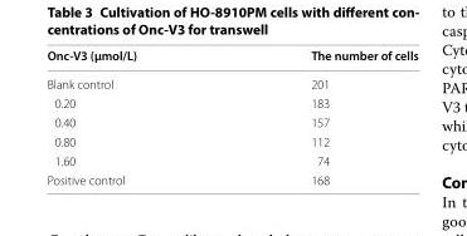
<table><thead><tr><td>Onc‑V3 (μmol/L)</td><td>The number of cells</td></tr></thead><tbody><tr><td>Blank control</td><td>201</td></tr><tr><td>0.20</td><td>183</td></tr><tr><td>0.40</td><td>157</td></tr><tr><td>0.80</td><td>112</td></tr><tr><td>1.60</td><td>74</td></tr><tr><td>Positive control</td><td>168</td></tr></tbody></table>